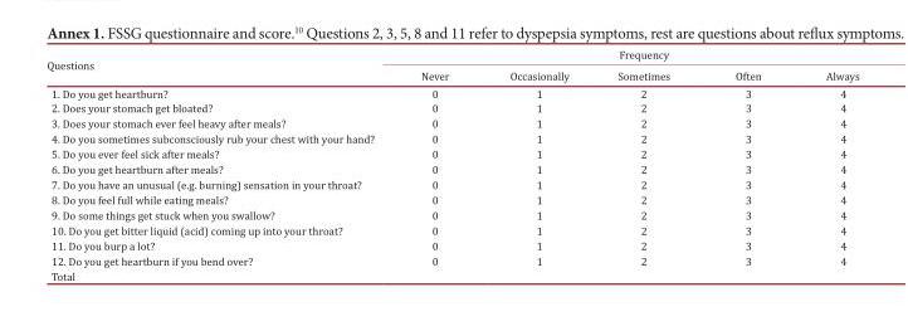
<table><tbody><tr><td rowspan="2">Questions</td><td colspan="5">Frequency</td></tr><tr><td>Never</td><td>Occasionally</td><td>Sometimes</td><td>Often</td><td>Always</td></tr><tr><td>1. Do you get heartburn?</td><td>0</td><td>1</td><td>2</td><td>3</td><td>4</td></tr><tr><td>2. Does your stomach get bloated?</td><td>0</td><td>1</td><td>2</td><td>3</td><td>4</td></tr><tr><td>3. Does your stomach ever feel heavy after meals?</td><td>0</td><td>1</td><td>2</td><td>3</td><td>4</td></tr><tr><td>4. Do you sometimes subconsciously rub your chest with your hand?</td><td>0</td><td>1</td><td>2</td><td>3</td><td>4</td></tr><tr><td>5. Do you ever feel sick after meals?</td><td>0</td><td>1</td><td>2</td><td>3</td><td>4</td></tr><tr><td>6. Do you get heartburn after meals?</td><td>0</td><td>1</td><td>2</td><td>3</td><td>4</td></tr><tr><td>7. Do you have an unusual (e.g. burning) sensation in your throat?</td><td>0</td><td>1</td><td>2</td><td>3</td><td>4</td></tr><tr><td>8. Do you feel full while eating meals?</td><td>0</td><td>1</td><td>2</td><td>3</td><td>4</td></tr><tr><td>9. Do some things get stuck when you swallow?</td><td>0</td><td>1</td><td>2</td><td>3</td><td>4</td></tr><tr><td>10. Do you get bitter liquid (acid) coming up into your throat?</td><td>0</td><td>1</td><td>2</td><td>3</td><td>4</td></tr><tr><td>11. Do you burp a lot?</td><td>0</td><td>1</td><td>2</td><td>3</td><td>4</td></tr><tr><td>12. Do you get heartburn if you bend over?</td><td>0</td><td>1</td><td>2</td><td>3</td><td>4</td></tr><tr><td>Total</td><td></td><td></td><td></td><td></td><td></td></tr></tbody></table>